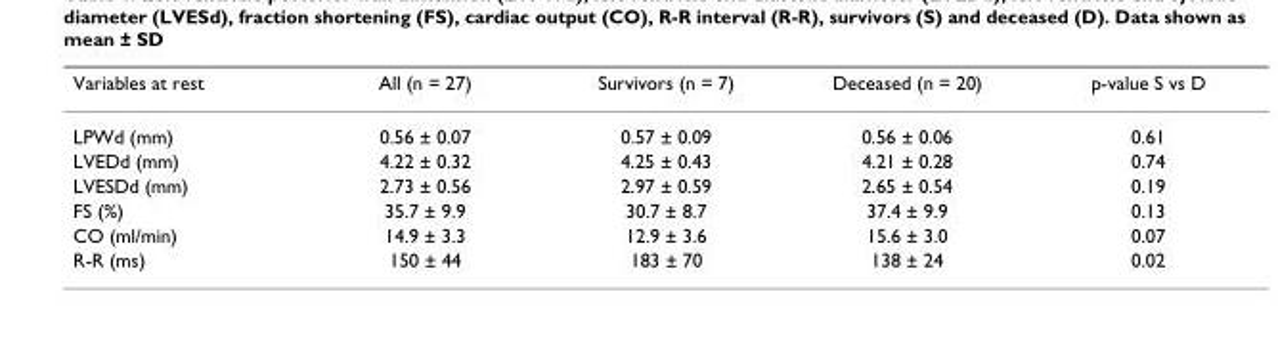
<table><thead><tr><td>Variables at rest</td><td>All (n = 27)</td><td>Survivors (n = 7)</td><td>Deceased (n = 20)</td><td>p-value S vs D</td></tr></thead><tbody><tr><td>LPWd (mm)</td><td>0.56 ± 0.07</td><td>0.57 ± 0.09</td><td>0.56 ± 0.06</td><td>0.61</td></tr><tr><td>LVEDd (mm)</td><td>4.22 ± 0.32</td><td>4.25 ± 0.43</td><td>4.21 ± 0.28</td><td>0.74</td></tr><tr><td>LVESDd (mm)</td><td>2.73 ± 0.56</td><td>2.97 ± 0.59</td><td>2.65 ± 0.54</td><td>0.19</td></tr><tr><td>FS (%)</td><td>35.7 ± 9.9</td><td>30.7 ± 8.7</td><td>37.4 ± 9.9</td><td>0.13</td></tr><tr><td>CO (ml/min)</td><td>14.9 ± 3.3</td><td>12.9 ± 3.6</td><td>15.6 ± 3.0</td><td>0.07</td></tr><tr><td>R-R (ms)</td><td>150 ± 44</td><td>183 ± 70</td><td>138 ± 24</td><td>0.02</td></tr></tbody></table>